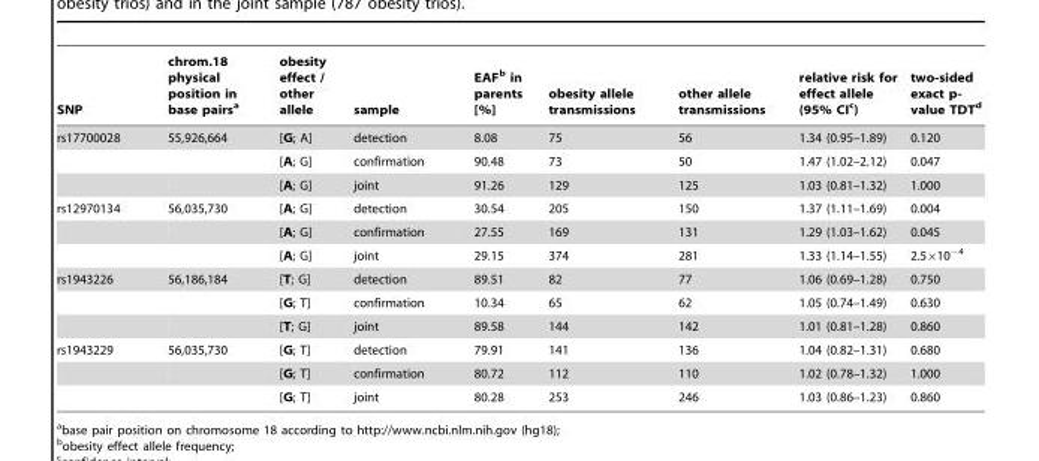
<table><thead><tr><td>SNP</td><td>chrom.18 physical position in base pairs<sup>a</sup></td><td>obesity effect / other allele</td><td>sample</td><td>EAF<sup>b</sup> in parents [%]</td><td>obesity allele transmissions</td><td>other allele transmissions</td><td>relative risk for effect allele (95% CI<sup>c</sup>)</td><td>two-sided exact p- value TDT<sup>d</sup></td></tr></thead><tbody><tr><td rowspan="3">rs17700028</td><td>55,926,664</td><td>[G; A]</td><td>detection</td><td>8.08</td><td>75</td><td>56</td><td>1.34 (0.95–1.89)</td><td>0.120</td></tr><tr><td></td><td>[A; G]</td><td>confirmation</td><td>90.48</td><td>73</td><td>50</td><td>1.47 (1.02–2.12)</td><td>0.047</td></tr><tr><td></td><td>[A; G]</td><td>joint</td><td>91.26</td><td>129</td><td>125</td><td>1.03 (0.81–1.32)</td><td>1.000</td></tr><tr><td rowspan="3">rs12970134</td><td>56,035,730</td><td>[A; G]</td><td>detection</td><td>30.54</td><td>205</td><td>150</td><td>1.37 (1.11–1.69)</td><td>0.004</td></tr><tr><td></td><td>[A; G]</td><td>confirmation</td><td>27.55</td><td>169</td><td>131</td><td>1.29 (1.03–1.62)</td><td>0.045</td></tr><tr><td></td><td>[A; G]</td><td>joint</td><td>29.15</td><td>374</td><td>281</td><td>1.33 (1.14–1.55)</td><td>2.5×10<sup>−4</sup></td></tr><tr><td rowspan="3">rs1943226</td><td>56,186,184</td><td>[T; G]</td><td>detection</td><td>89.51</td><td>82</td><td>77</td><td>1.06 (0.69–1.28)</td><td>0.750</td></tr><tr><td></td><td>[G; T]</td><td>confirmation</td><td>10.34</td><td>65</td><td>62</td><td>1.05 (0.74–1.49)</td><td>0.630</td></tr><tr><td></td><td>[T; G]</td><td>joint</td><td>89.58</td><td>144</td><td>142</td><td>1.01 (0.81–1.28)</td><td>0.860</td></tr><tr><td rowspan="3">rs1943229</td><td>56,035,730</td><td>[G; T]</td><td>detection</td><td>79.91</td><td>141</td><td>136</td><td>1.04 (0.82–1.31)</td><td>0.680</td></tr><tr><td></td><td>[G; T]</td><td>confirmation</td><td>80.72</td><td>112</td><td>110</td><td>1.02 (0.78–1.32)</td><td>1.000</td></tr><tr><td></td><td>[G; T]</td><td>joint</td><td>80.28</td><td>253</td><td>246</td><td>1.03 (0.86–1.23)</td><td>0.860</td></tr></tbody></table>